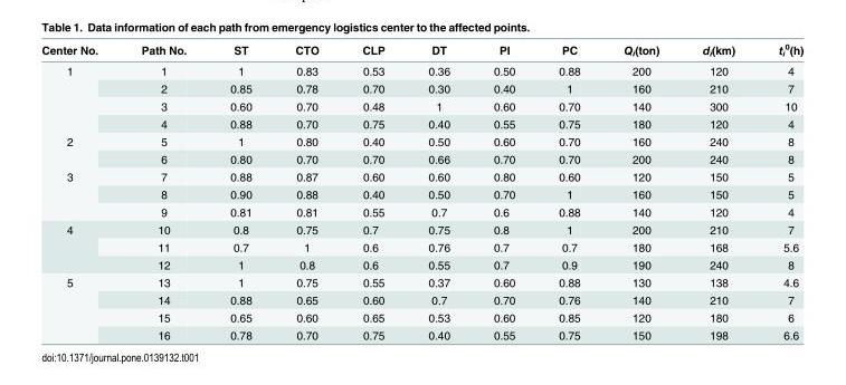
<table><thead><tr><td>Center No.</td><td>Path No.</td><td>ST</td><td>CTO</td><td>CLP</td><td>DT</td><td>PI</td><td>PC</td><td>Q<sub>i</sub>(ton)</td><td>d<sub>i</sub>(km)</td><td>t<sub>i</sub> <sup>0</sup>(h)</td></tr></thead><tbody><tr><td rowspan="4">1</td><td>1</td><td>1</td><td>0.83</td><td>0.53</td><td>0.36</td><td>0.50</td><td>0.88</td><td>200</td><td>120</td><td>4</td></tr><tr><td>2</td><td>0.85</td><td>0.78</td><td>0.70</td><td>0.30</td><td>0.40</td><td>1</td><td>160</td><td>210</td><td>7</td></tr><tr><td>3</td><td>0.60</td><td>0.70</td><td>0.48</td><td>1</td><td>0.60</td><td>0.70</td><td>140</td><td>300</td><td>10</td></tr><tr><td>4</td><td>0.88</td><td>0.70</td><td>0.75</td><td>0.40</td><td>0.55</td><td>0.75</td><td>180</td><td>120</td><td>4</td></tr><tr><td rowspan="2">2</td><td>5</td><td>1</td><td>0.80</td><td>0.40</td><td>0.50</td><td>0.60</td><td>0.70</td><td>160</td><td>240</td><td>8</td></tr><tr><td>6</td><td>0.80</td><td>0.70</td><td>0.70</td><td>0.66</td><td>0.70</td><td>0.70</td><td>200</td><td>240</td><td>8</td></tr><tr><td rowspan="3">3</td><td>7</td><td>0.88</td><td>0.87</td><td>0.60</td><td>0.60</td><td>0.80</td><td>0.60</td><td>120</td><td>150</td><td>5</td></tr><tr><td>8</td><td>0.90</td><td>0.88</td><td>0.40</td><td>0.50</td><td>0.70</td><td>1</td><td>160</td><td>150</td><td>5</td></tr><tr><td>9</td><td>0.81</td><td>0.81</td><td>0.55</td><td>0.7</td><td>0.6</td><td>0.88</td><td>140</td><td>120</td><td>4</td></tr><tr><td rowspan="3">4</td><td>10</td><td>0.8</td><td>0.75</td><td>0.7</td><td>0.75</td><td>0.8</td><td>1</td><td>200</td><td>210</td><td>7</td></tr><tr><td>11</td><td>0.7</td><td>1</td><td>0.6</td><td>0.76</td><td>0.7</td><td>0.7</td><td>180</td><td>168</td><td>5.6</td></tr><tr><td>12</td><td>1</td><td>0.8</td><td>0.6</td><td>0.55</td><td>0.7</td><td>0.9</td><td>190</td><td>240</td><td>8</td></tr><tr><td rowspan="4">5</td><td>13</td><td>1</td><td>0.75</td><td>0.55</td><td>0.37</td><td>0.60</td><td>0.88</td><td>130</td><td>138</td><td>4.6</td></tr><tr><td>14</td><td>0.88</td><td>0.65</td><td>0.60</td><td>0.7</td><td>0.70</td><td>0.76</td><td>140</td><td>210</td><td>7</td></tr><tr><td>15</td><td>0.65</td><td>0.60</td><td>0.65</td><td>0.53</td><td>0.60</td><td>0.85</td><td>120</td><td>180</td><td>6</td></tr><tr><td>16</td><td>0.78</td><td>0.70</td><td>0.75</td><td>0.40</td><td>0.55</td><td>0.75</td><td>150</td><td>198</td><td>6.6</td></tr></tbody></table>